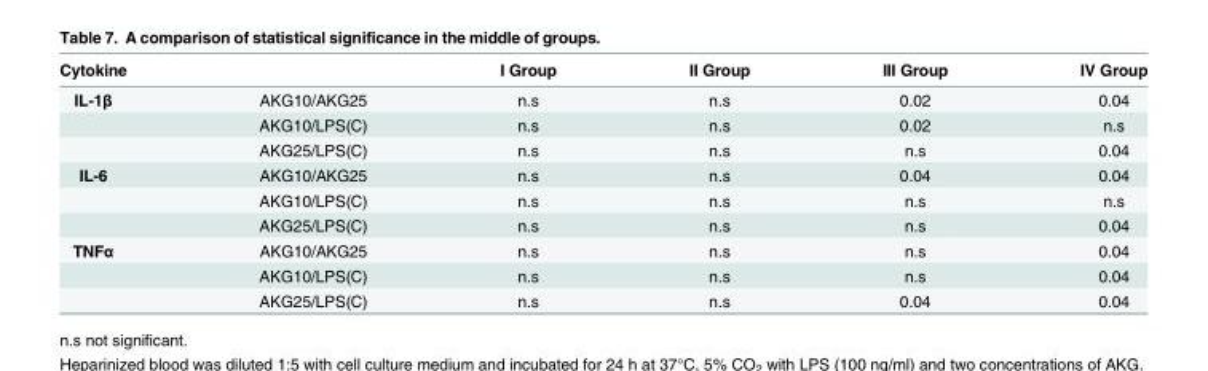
<table><thead><tr><td>Cytokine</td><td></td><td>I Group</td><td>II Group</td><td>III Group</td><td>IV Group</td></tr></thead><tbody><tr><td rowspan="3">IL-1β</td><td>AKG10/AKG25</td><td>n.s</td><td>n.s</td><td>0.02</td><td>0.04</td></tr><tr><td>AKG10/LPS(C)</td><td>n.s</td><td>n.s</td><td>0.02</td><td>n.s</td></tr><tr><td>AKG25/LPS(C)</td><td>n.s</td><td>n.s</td><td>n.s</td><td>0.04</td></tr><tr><td rowspan="3">IL-6</td><td>AKG10/AKG25</td><td>n.s</td><td>n.s</td><td>0.04</td><td>0.04</td></tr><tr><td>AKG10/LPS(C)</td><td>n.s</td><td>n.s</td><td>n.s</td><td>n.s</td></tr><tr><td>AKG25/LPS(C)</td><td>n.s</td><td>n.s</td><td>n.s</td><td>0.04</td></tr><tr><td rowspan="3">TNFα</td><td>AKG10/AKG25</td><td>n.s</td><td>n.s</td><td>n.s</td><td>0.04</td></tr><tr><td>AKG10/LPS(C)</td><td>n.s</td><td>n.s</td><td>n.s</td><td>0.04</td></tr><tr><td>AKG25/LPS(C)</td><td>n.s</td><td>n.s</td><td>0.04</td><td>0.04</td></tr></tbody></table>